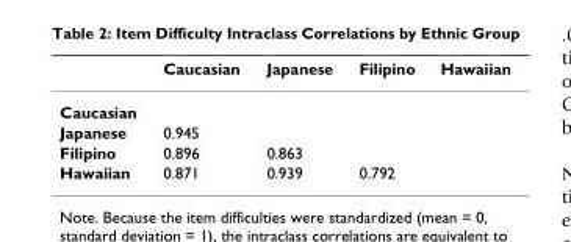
<table><thead><tr><td></td><td>Caucasian</td><td>Japanese</td><td>Filipino</td><td>Hawaiian</td></tr></thead><tbody><tr><td colspan="5">Caucasian</td></tr><tr><td>Japanese</td><td>0.945</td><td></td><td></td><td></td></tr><tr><td>Filipino</td><td>0.896</td><td>0.863</td><td></td><td></td></tr><tr><td>Hawaiian</td><td>0.871</td><td>0.939</td><td>0.792</td><td></td></tr></tbody></table>